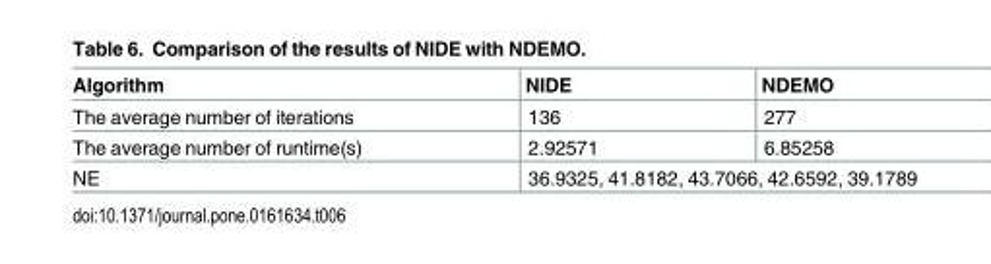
<table><thead><tr><td>Algorithm</td><td>NIDE</td><td>NDEMO</td></tr></thead><tbody><tr><td>The average number of iterations</td><td>136</td><td>277</td></tr><tr><td>The average number of runtime(s)</td><td>2.92571</td><td>6.85258</td></tr><tr><td>NE</td><td colspan="2">36.9325, 41.8182, 43.7066, 42.6592, 39.1789</td></tr></tbody></table>